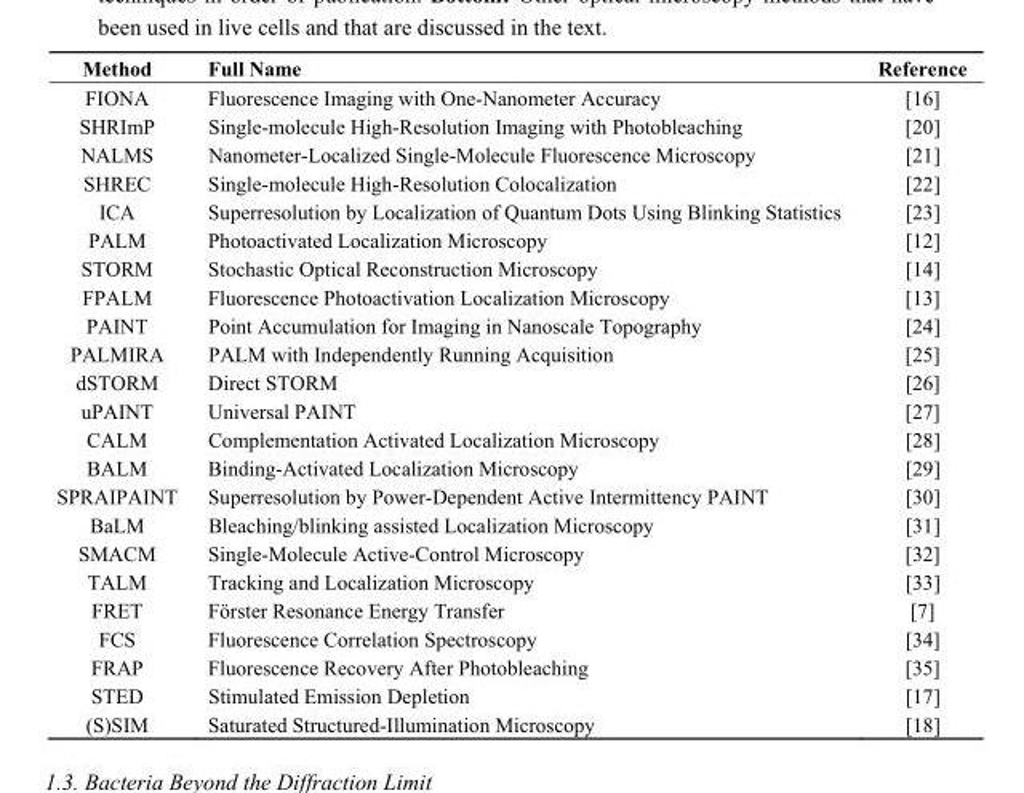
<table><thead><tr><td>Method</td><td>Full Name</td><td>Reference</td></tr></thead><tbody><tr><td>FIONA</td><td>Fluorescence Imaging with One-Nanometer Accuracy</td><td>[16]</td></tr><tr><td>SHRImP</td><td>Single-molecule High-Resolution Imaging with Photobleaching</td><td>[20]</td></tr><tr><td>NALMS</td><td>Nanometer-Localized Single-Molecule Fluorescence Microscopy</td><td>[21]</td></tr><tr><td>SHREC</td><td>Single-molecule High-Resolution Colocalization</td><td>[22]</td></tr><tr><td>ICA</td><td>Superresolution by Localization of Quantum Dots Using Blinking Statistics</td><td>[23]</td></tr><tr><td>PALM</td><td>Photoactivated Localization Microscopy</td><td>[12]</td></tr><tr><td>STORM</td><td>Stochastic Optical Reconstruction Microscopy</td><td>[14]</td></tr><tr><td>FPALM</td><td>Fluorescence Photoactivation Localization Microscopy</td><td>[13]</td></tr><tr><td>PAINT</td><td>Point Accumulation for Imaging in Nanoscale Topography</td><td>[24]</td></tr><tr><td>PALMIRA</td><td>PALM with Independently Running Acquisition</td><td>[25]</td></tr><tr><td>dSTORM</td><td>Direct STORM</td><td>[26]</td></tr><tr><td>uPAINT</td><td>Universal PAINT</td><td>[27]</td></tr><tr><td>CALM</td><td>Complementation Activated Localization Microscopy</td><td>[28]</td></tr><tr><td>BALM</td><td>Binding-Activated Localization Microscopy</td><td>[29]</td></tr><tr><td>SPRAIPAINT</td><td>Superresolution by Power-Dependent Active Intermittency PAINT</td><td>[30]</td></tr><tr><td>BaLM</td><td>Bleaching/blinking assisted Localization Microscopy</td><td>[31]</td></tr><tr><td>SMACM</td><td>Single-Molecule Active-Control Microscopy</td><td>[32]</td></tr><tr><td>TALM</td><td>Tracking and Localization Microscopy</td><td>[33]</td></tr><tr><td>FRET</td><td>Förster Resonance Energy Transfer</td><td>[7]</td></tr><tr><td>FCS</td><td>Fluorescence Correlation Spectroscopy</td><td>[34]</td></tr><tr><td>FRAP</td><td>Fluorescence Recovery After Photobleaching</td><td>[35]</td></tr><tr><td>STED</td><td>Stimulated Emission Depletion</td><td>[17]</td></tr><tr><td>(S)SIM</td><td>Saturated Structured-Illumination Microscopy</td><td>[18]</td></tr></tbody></table>